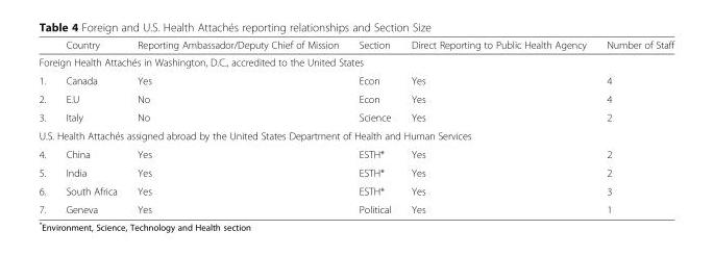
<table><thead><tr><td></td><td>Country</td><td>Reporting Ambassador/Deputy Chief of Mission</td><td>Section</td><td>Direct Reporting to Public Health Agency</td><td>Number of Staff</td></tr></thead><tbody><tr><td colspan="6">Foreign Health Attachés in Washington, D.C., accredited to the United States</td></tr><tr><td>1.</td><td>Canada</td><td>Yes</td><td>Econ</td><td>Yes</td><td>4</td></tr><tr><td>2.</td><td>E.U</td><td>No</td><td>Econ</td><td>Yes</td><td>4</td></tr><tr><td>3.</td><td>Italy</td><td>No</td><td>Science</td><td>Yes</td><td>2</td></tr><tr><td colspan="6">U.S. Health Attachés assigned abroad by the United States Department of Health and Human Services</td></tr><tr><td>4.</td><td>China</td><td>Yes</td><td>ESTH*</td><td>Yes</td><td>2</td></tr><tr><td>5.</td><td>India</td><td>Yes</td><td>ESTH*</td><td>Yes</td><td>2</td></tr><tr><td>6.</td><td>South Africa</td><td>Yes</td><td>ESTH*</td><td>Yes</td><td>3</td></tr><tr><td>7.</td><td>Geneva</td><td>Yes</td><td>Political</td><td>Yes</td><td>1</td></tr></tbody></table>